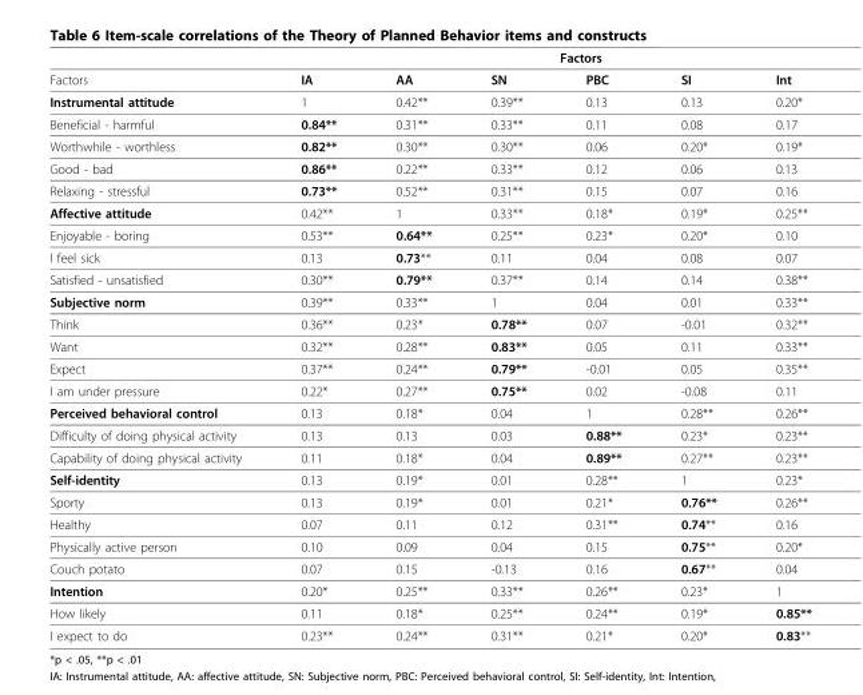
<table><thead><tr><td rowspan="2">Factors</td><td colspan="6">Factors</td></tr><tr><td>IA</td><td>AA</td><td>SN</td><td>PBC</td><td>SI</td><td>Int</td></tr></thead><tbody><tr><td>Instrumental attitude</td><td>1</td><td>0.42**</td><td>0.39**</td><td>0.13</td><td>0.13</td><td>0.20*</td></tr><tr><td>Beneficial - harmful</td><td>0.84**</td><td>0.31**</td><td>0.33**</td><td>0.11</td><td>0.08</td><td>0.17</td></tr><tr><td>Worthwhile - worthless</td><td>0.82**</td><td>0.30**</td><td>0.30**</td><td>0.06</td><td>0.20*</td><td>0.19*</td></tr><tr><td>Good - bad</td><td>0.86**</td><td>0.22**</td><td>0.33**</td><td>0.12</td><td>0.06</td><td>0.13</td></tr><tr><td>Relaxing - stressful</td><td>0.73**</td><td>0.52**</td><td>0.31**</td><td>0.15</td><td>0.07</td><td>0.16</td></tr><tr><td>Affective attitude</td><td>0.42**</td><td>1</td><td>0.33**</td><td>0.18*</td><td>0.19*</td><td>0.25**</td></tr><tr><td>Enjoyable - boring</td><td>0.53**</td><td>0.64**</td><td>0.25**</td><td>0.23*</td><td>0.20*</td><td>0.10</td></tr><tr><td>I feel sick</td><td>0.13</td><td>0.73**</td><td>0.11</td><td>0.04</td><td>0.08</td><td>0.07</td></tr><tr><td>Satisfied - unsatisfied</td><td>0.30**</td><td>0.79**</td><td>0.37**</td><td>0.14</td><td>0.14</td><td>0.38**</td></tr><tr><td>Subjective norm</td><td>0.39**</td><td>0.33**</td><td>1</td><td>0.04</td><td>0.01</td><td>0.33**</td></tr><tr><td>Think</td><td>0.36**</td><td>0.23*</td><td>0.78**</td><td>0.07</td><td>-0.01</td><td>0.32**</td></tr><tr><td>Want</td><td>0.32**</td><td>0.28**</td><td>0.83**</td><td>0.05</td><td>0.11</td><td>0.33**</td></tr><tr><td>Expect</td><td>0.37**</td><td>0.24**</td><td>0.79**</td><td>-0.01</td><td>0.05</td><td>0.35**</td></tr><tr><td>I am under pressure</td><td>0.22*</td><td>0.27**</td><td>0.75**</td><td>0.02</td><td>-0.08</td><td>0.11</td></tr><tr><td>Perceived behavioral control</td><td>0.13</td><td>0.18*</td><td>0.04</td><td>1</td><td>0.28**</td><td>0.26**</td></tr><tr><td>Difficulty of doing physical activity</td><td>0.13</td><td>0.13</td><td>0.03</td><td>0.88**</td><td>0.23*</td><td>0.23**</td></tr><tr><td>Capability of doing physical activity</td><td>0.11</td><td>0.18*</td><td>0.04</td><td>0.89**</td><td>0.27**</td><td>0.23**</td></tr><tr><td>Self-identity</td><td>0.13</td><td>0.19*</td><td>0.01</td><td>0.28**</td><td>1</td><td>0.23*</td></tr><tr><td>Sporty</td><td>0.13</td><td>0.19*</td><td>0.01</td><td>0.21*</td><td>0.76**</td><td>0.26**</td></tr><tr><td>Healthy</td><td>0.07</td><td>0.11</td><td>0.12</td><td>0.31**</td><td>0.74**</td><td>0.16</td></tr><tr><td>Physically active person</td><td>0.10</td><td>0.09</td><td>0.04</td><td>0.15</td><td>0.75**</td><td>0.20*</td></tr><tr><td>Couch potato</td><td>0.07</td><td>0.15</td><td>-0.13</td><td>0.16</td><td>0.67**</td><td>0.04</td></tr><tr><td>Intention</td><td>0.20*</td><td>0.25**</td><td>0.33**</td><td>0.26**</td><td>0.23*</td><td>1</td></tr><tr><td>How likely</td><td>0.11</td><td>0.18*</td><td>0.25**</td><td>0.24**</td><td>0.19*</td><td>0.85**</td></tr><tr><td>I expect to do</td><td>0.23**</td><td>0.24**</td><td>0.31**</td><td>0.21*</td><td>0.20*</td><td>0.83**</td></tr></tbody></table>